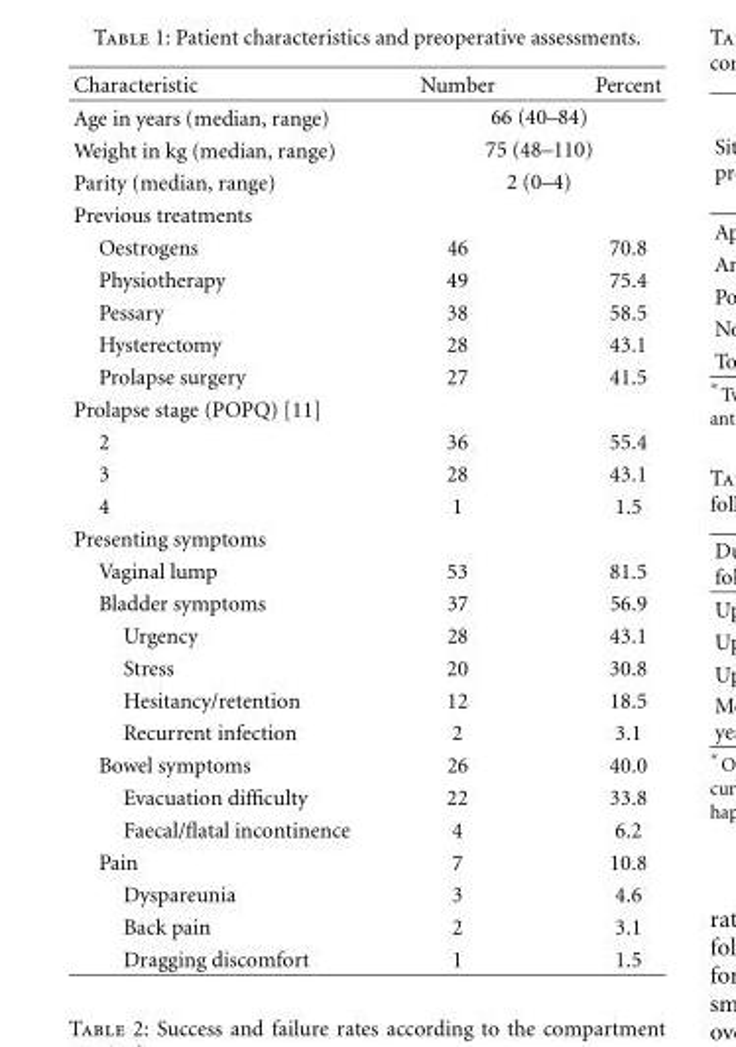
<table><thead><tr><td>Characteristic</td><td>Number</td><td>Percent</td></tr></thead><tbody><tr><td>Age in years (median, range)</td><td colspan="2">66 (40–84)</td></tr><tr><td>Weight in kg (median, range)</td><td colspan="2">75 (48–110)</td></tr><tr><td>Parity (median, range)</td><td colspan="2">2 (0–4)</td></tr><tr><td colspan="3">Previous treatments</td></tr><tr><td>Oestrogens</td><td>46</td><td>70.8</td></tr><tr><td>Physiotherapy</td><td>49</td><td>75.4</td></tr><tr><td>Pessary</td><td>38</td><td>58.5</td></tr><tr><td>Hysterectomy</td><td>28</td><td>43.1</td></tr><tr><td>Prolapse surgery</td><td>27</td><td>41.5</td></tr><tr><td colspan="3">Prolapse stage (POPQ) [11]</td></tr><tr><td>2</td><td>36</td><td>55.4</td></tr><tr><td>3</td><td>28</td><td>43.1</td></tr><tr><td>4</td><td>1</td><td>1.5</td></tr><tr><td colspan="3">Presenting symptoms</td></tr><tr><td>Vaginal lump</td><td>53</td><td>81.5</td></tr><tr><td>Bladder symptoms</td><td>37</td><td>56.9</td></tr><tr><td>Urgency</td><td>28</td><td>43.1</td></tr><tr><td>Stress</td><td>20</td><td>30.8</td></tr><tr><td>Hesitancy/retention</td><td>12</td><td>18.5</td></tr><tr><td>Recurrent infection</td><td>2</td><td>3.1</td></tr><tr><td>Bowel symptoms</td><td>26</td><td>40.0</td></tr><tr><td>Evacuation difficulty</td><td>22</td><td>33.8</td></tr><tr><td>Faecal/flatal incontinence</td><td>4</td><td>6.2</td></tr><tr><td>Pain</td><td>7</td><td>10.8</td></tr><tr><td>Dyspareunia</td><td>3</td><td>4.6</td></tr><tr><td>Back pain</td><td>2</td><td>3.1</td></tr><tr><td>Dragging discomfort</td><td>1</td><td>1.5</td></tr></tbody></table>